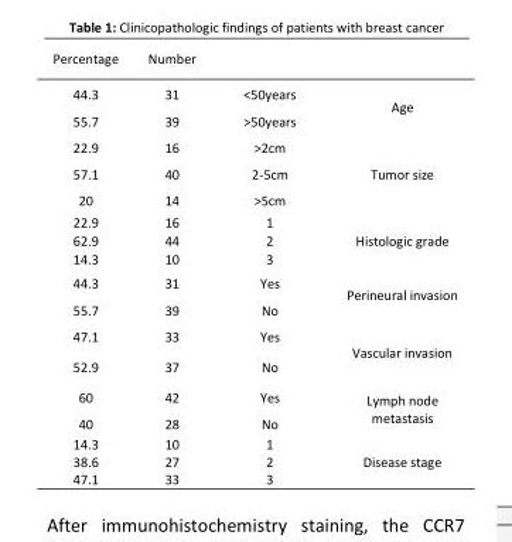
<table><thead><tr><td>Percentage</td><td>Number</td><td></td><td></td></tr></thead><tbody><tr><td>44.3</td><td>31</td><td>&lt;50years</td><td rowspan="2">Age</td></tr><tr><td>55.7</td><td>39</td><td>&gt;50years</td></tr><tr><td>22.9</td><td>16</td><td>&gt;2cm</td><td rowspan="3">Tumor size</td></tr><tr><td>57.1</td><td>40</td><td>2-5cm</td></tr><tr><td>20</td><td>14</td><td>&gt;5cm</td></tr><tr><td>22.9</td><td>16</td><td>1</td><td rowspan="3">Histologic grade</td></tr><tr><td>62.9</td><td>44</td><td>2</td></tr><tr><td>14.3</td><td>10</td><td>3</td></tr><tr><td>44.3</td><td>31</td><td>Yes</td><td rowspan="2">Perineural invasion</td></tr><tr><td>55.7</td><td>39</td><td>No</td></tr><tr><td>47.1</td><td>33</td><td>Yes</td><td rowspan="2">Vascular invasion</td></tr><tr><td>52.9</td><td>37</td><td>No</td></tr><tr><td>60</td><td>42</td><td>Yes</td><td rowspan="2">Lymph node metastasis</td></tr><tr><td>40</td><td>28</td><td>No</td></tr><tr><td>14.3</td><td>10</td><td>1</td><td rowspan="3">Disease stage</td></tr><tr><td>38.6</td><td>27</td><td>2</td></tr><tr><td>47.1</td><td>33</td><td>3</td></tr></tbody></table>